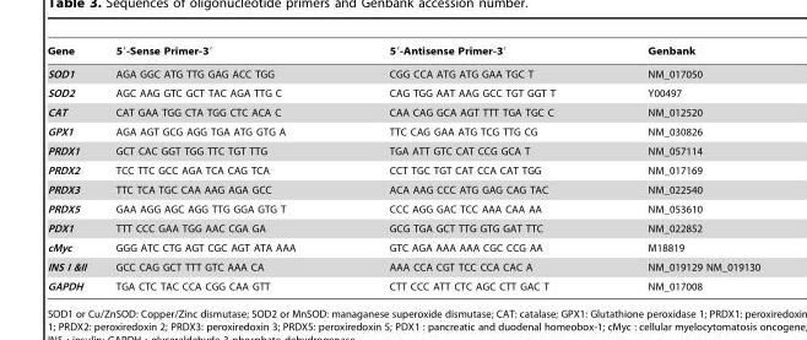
<table><thead><tr><td>Gene</td><td>5′-Sense Primer-3′</td><td>5′-Antisense Primer-3′</td><td>Genbank</td></tr></thead><tbody><tr><td>SOD1</td><td>AGA GGC ATG TTG GAG ACC TGG</td><td>CGG CCA ATG ATG GAA TGC T</td><td>NM_017050</td></tr><tr><td>SOD2</td><td>AGC AAG GTC GCT TAC AGA TTG C</td><td>CAG TGG AAT AAG GCC TGT GGT T</td><td>Y00497</td></tr><tr><td>CAT</td><td>CAT GAA TGG CTA TGG CTC ACA C</td><td>CAA CAG GCA AGT TTT TGA TGC C</td><td>NM_012520</td></tr><tr><td>GPX1</td><td>AGA AGT GCG AGG TGA ATG GTG A</td><td>TTC CAG GAA ATG TCG TTG CG</td><td>NM_030826</td></tr><tr><td>PRDX1</td><td>GCT CAC GGT TGG TTC TGT TTG</td><td>TGA ATT GTC CAT CCG GCA T</td><td>NM_057114</td></tr><tr><td>PRDX2</td><td>TCC TTC GCC AGA TCA CAG TCA</td><td>CCT TGC TGT CAT CCA CAT TGG</td><td>NM_017169</td></tr><tr><td>PRDX3</td><td>TTC TCA TGC CAA AAG AGA GCC</td><td>ACA AAG CCC ATG GAG CAG TAC</td><td>NM_022540</td></tr><tr><td>PRDX5</td><td>GAA AGG AGC AGG TTG GGA GTG T</td><td>CCC AGG GAC TCC AAA CAA AA</td><td>NM_053610</td></tr><tr><td>PDX1</td><td>TTT CCC GAA TGG AAC CGA GA</td><td>GCG TGA GCT TTG GTG GAT TTC</td><td>NM_022852</td></tr><tr><td>cMyc</td><td>GGG ATC CTG AGT CGC AGT ATA AAA</td><td>GTC AGA AAA AAA CGC CCG AA</td><td>M18819</td></tr><tr><td>INS I &amp;II</td><td>GCC CAG GCT TTT GTC AAA CA</td><td>AAA CCA CGT TCC CCA CAC A</td><td>NM_019129 NM_019130</td></tr><tr><td>GAPDH</td><td>TGA CTC TAC CCA CGG CAA GTT</td><td>CTT CCC ATT CTC AGC CTT GAC T</td><td>NM_017008</td></tr></tbody></table>